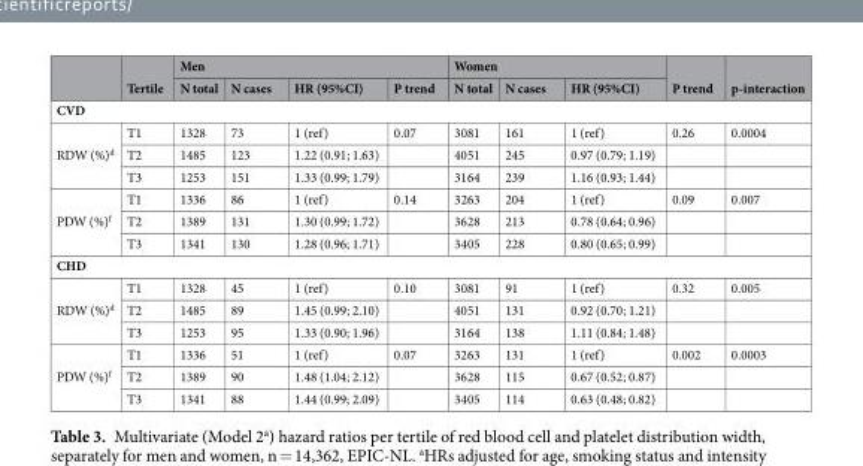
<table><thead><tr><td rowspan="2"></td><td rowspan="2">Tertile</td><td colspan="4">Men</td><td colspan="3">Women</td><td rowspan="2">P trend</td><td rowspan="2">p-interaction</td></tr><tr><td>N total</td><td>N cases</td><td>HR (95%CI)</td><td>P trend</td><td>N total</td><td>N cases</td><td>HR (95%CI)</td></tr></thead><tbody><tr><td colspan="11">CVD</td></tr><tr><td rowspan="3">RDW (%)<sup>d</sup></td><td>T1</td><td>1328</td><td>73</td><td>1 (ref)</td><td>0.07</td><td>3081</td><td>161</td><td>1 (ref)</td><td>0.26</td><td>0.0004</td></tr><tr><td>T2</td><td>1485</td><td>123</td><td>1.22 (0.91; 1.63)</td><td></td><td>4051</td><td>245</td><td>0.97 (0.79; 1.19)</td><td></td><td></td></tr><tr><td>T3</td><td>1253</td><td>151</td><td>1.33 (0.99; 1.79)</td><td></td><td>3164</td><td>239</td><td>1.16 (0.93; 1.44)</td><td></td><td></td></tr><tr><td rowspan="3">PDW (%)<sup>f</sup></td><td>T1</td><td>1336</td><td>86</td><td>1 (ref)</td><td>0.14</td><td>3263</td><td>204</td><td>1 (ref)</td><td>0.09</td><td>0.007</td></tr><tr><td>T2</td><td>1389</td><td>131</td><td>1.30 (0.99; 1.72)</td><td></td><td>3628</td><td>213</td><td>0.78 (0.64; 0.96)</td><td></td><td></td></tr><tr><td>T3</td><td>1341</td><td>130</td><td>1.28 (0.96; 1.71)</td><td></td><td>3405</td><td>228</td><td>0.80 (0.65; 0.99)</td><td></td><td></td></tr><tr><td colspan="11">CHD</td></tr><tr><td rowspan="3">RDW (%)<sup>d</sup></td><td>T1</td><td>1328</td><td>45</td><td>1 (ref)</td><td>0.10</td><td>3081</td><td>91</td><td>1 (ref)</td><td>0.32</td><td>0.005</td></tr><tr><td>T2</td><td>1485</td><td>89</td><td>1.45 (0.99; 2.10)</td><td></td><td>4051</td><td>131</td><td>0.92 (0.70; 1.21)</td><td></td><td></td></tr><tr><td>T3</td><td>1253</td><td>95</td><td>1.33 (0.90; 1.96)</td><td></td><td>3164</td><td>138</td><td>1.11 (0.84; 1.48)</td><td></td><td></td></tr><tr><td rowspan="3">PDW (%)<sup>f</sup></td><td>T1</td><td>1336</td><td>51</td><td>1 (ref)</td><td>0.07</td><td>3263</td><td>131</td><td>1 (ref)</td><td>0.002</td><td>0.0003</td></tr><tr><td>T2</td><td>1389</td><td>90</td><td>1.48 (1.04; 2.12)</td><td></td><td>3628</td><td>115</td><td>0.67 (0.52; 0.87)</td><td></td><td></td></tr><tr><td>T3</td><td>1341</td><td>88</td><td>1.44 (0.99; 2.09)</td><td></td><td>3405</td><td>114</td><td>0.63 (0.48; 0.82)</td><td></td><td></td></tr></tbody></table>